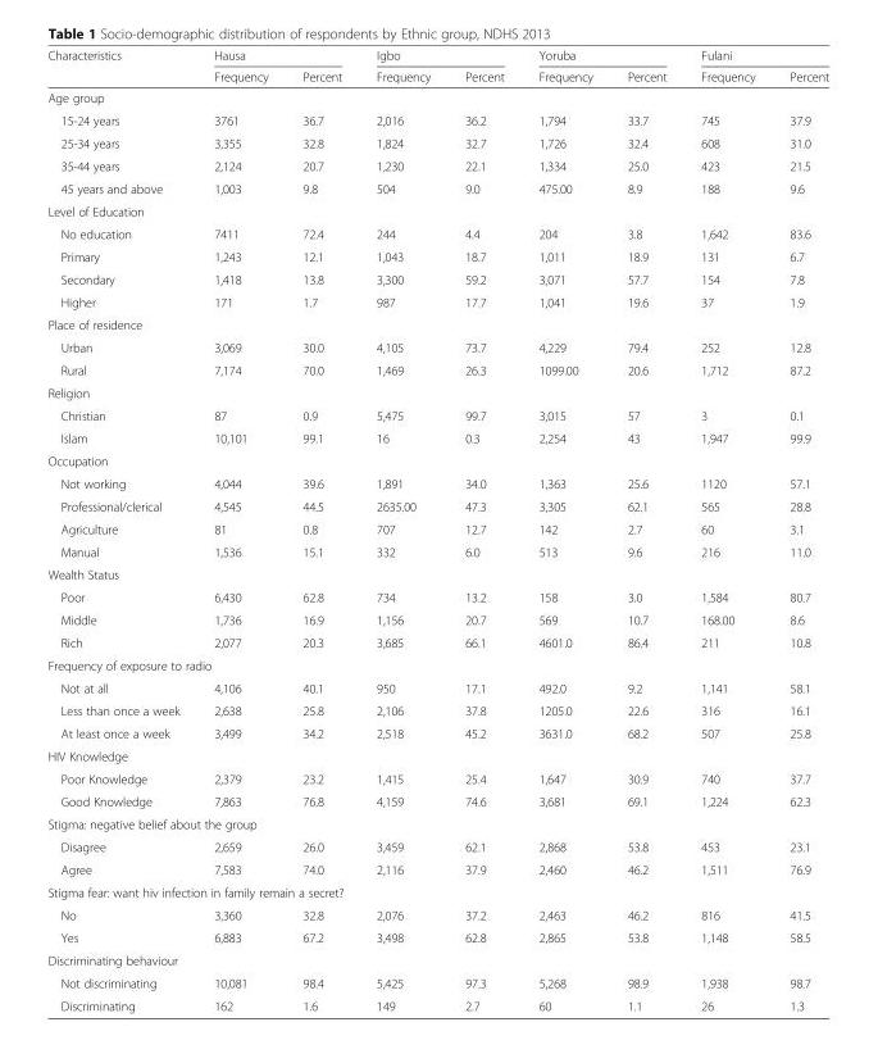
<table><thead><tr><td rowspan="2">Characteristics</td><td colspan="2">Hausa</td><td colspan="2">Igbo</td><td colspan="2">Yoruba</td><td colspan="2">Fulani</td></tr><tr><td>Frequency</td><td>Percent</td><td>Frequency</td><td>Percent</td><td>Frequency</td><td>Percent</td><td>Frequency</td><td>Percent</td></tr></thead><tbody><tr><td colspan="9">Age group</td></tr><tr><td>15-24 years</td><td>3761</td><td>36.7</td><td>2,016</td><td>36.2</td><td>1,794</td><td>33.7</td><td>745</td><td>37.9</td></tr><tr><td>25-34 years</td><td>3,355</td><td>32.8</td><td>1,824</td><td>32.7</td><td>1,726</td><td>32.4</td><td>608</td><td>31.0</td></tr><tr><td>35-44 years</td><td>2,124</td><td>20.7</td><td>1,230</td><td>22.1</td><td>1,334</td><td>25.0</td><td>423</td><td>21.5</td></tr><tr><td>45 years and above</td><td>1,003</td><td>9.8</td><td>504</td><td>9.0</td><td>475.00</td><td>8.9</td><td>188</td><td>9.6</td></tr><tr><td colspan="9">Level of Education</td></tr><tr><td>No education</td><td>7411</td><td>72.4</td><td>244</td><td>4.4</td><td>204</td><td>3.8</td><td>1,642</td><td>83.6</td></tr><tr><td>Primary</td><td>1,243</td><td>12.1</td><td>1,043</td><td>18.7</td><td>1,011</td><td>18.9</td><td>131</td><td>6.7</td></tr><tr><td>Secondary</td><td>1,418</td><td>13.8</td><td>3,300</td><td>59.2</td><td>3,071</td><td>57.7</td><td>154</td><td>7.8</td></tr><tr><td>Higher</td><td>171</td><td>1.7</td><td>987</td><td>17.7</td><td>1,041</td><td>19.6</td><td>37</td><td>1.9</td></tr><tr><td colspan="9">Place of residence</td></tr><tr><td>Urban</td><td>3,069</td><td>30.0</td><td>4,105</td><td>73.7</td><td>4,229</td><td>79.4</td><td>252</td><td>12.8</td></tr><tr><td>Rural</td><td>7,174</td><td>70.0</td><td>1,469</td><td>26.3</td><td>1099.00</td><td>20.6</td><td>1,712</td><td>87.2</td></tr><tr><td colspan="9">Religion</td></tr><tr><td>Christian</td><td>87</td><td>0.9</td><td>5,475</td><td>99.7</td><td>3,015</td><td>57</td><td>3</td><td>0.1</td></tr><tr><td>Islam</td><td>10,101</td><td>99.1</td><td>16</td><td>0.3</td><td>2,254</td><td>43</td><td>1,947</td><td>99.9</td></tr><tr><td colspan="9">Occupation</td></tr><tr><td>Not working</td><td>4,044</td><td>39.6</td><td>1,891</td><td>34.0</td><td>1,363</td><td>25.6</td><td>1120</td><td>57.1</td></tr><tr><td>Professional/clerical</td><td>4,545</td><td>44.5</td><td>2635.00</td><td>47.3</td><td>3,305</td><td>62.1</td><td>565</td><td>28.8</td></tr><tr><td>Agriculture</td><td>81</td><td>0.8</td><td>707</td><td>12.7</td><td>142</td><td>2.7</td><td>60</td><td>3.1</td></tr><tr><td>Manual</td><td>1,536</td><td>15.1</td><td>332</td><td>6.0</td><td>513</td><td>9.6</td><td>216</td><td>11.0</td></tr><tr><td colspan="9">Wealth Status</td></tr><tr><td>Poor</td><td>6,430</td><td>62.8</td><td>734</td><td>13.2</td><td>158</td><td>3.0</td><td>1,584</td><td>80.7</td></tr><tr><td>Middle</td><td>1,736</td><td>16.9</td><td>1,156</td><td>20.7</td><td>569</td><td>10.7</td><td>168.00</td><td>8.6</td></tr><tr><td>Rich</td><td>2,077</td><td>20.3</td><td>3,685</td><td>66.1</td><td>4601.0</td><td>86.4</td><td>211</td><td>10.8</td></tr><tr><td colspan="9">Frequency of exposure to radio</td></tr><tr><td>Not at all</td><td>4,106</td><td>40.1</td><td>950</td><td>17.1</td><td>492.0</td><td>9.2</td><td>1,141</td><td>58.1</td></tr><tr><td>Less than once a week</td><td>2,638</td><td>25.8</td><td>2,106</td><td>37.8</td><td>1205.0</td><td>22.6</td><td>316</td><td>16.1</td></tr><tr><td>At least once a week</td><td>3,499</td><td>34.2</td><td>2,518</td><td>45.2</td><td>3631.0</td><td>68.2</td><td>507</td><td>25.8</td></tr><tr><td colspan="9">HIV Knowledge</td></tr><tr><td>Poor Knowledge</td><td>2,379</td><td>23.2</td><td>1,415</td><td>25.4</td><td>1,647</td><td>30.9</td><td>740</td><td>37.7</td></tr><tr><td>Good Knowledge</td><td>7,863</td><td>76.8</td><td>4,159</td><td>74.6</td><td>3,681</td><td>69.1</td><td>1,224</td><td>62.3</td></tr><tr><td colspan="9">Stigma: negative belief about the group</td></tr><tr><td>Disagree</td><td>2,659</td><td>26.0</td><td>3,459</td><td>62.1</td><td>2,868</td><td>53.8</td><td>453</td><td>23.1</td></tr><tr><td>Agree</td><td>7,583</td><td>74.0</td><td>2,116</td><td>37.9</td><td>2,460</td><td>46.2</td><td>1,511</td><td>76.9</td></tr><tr><td colspan="9">Stigma fear: want hiv infection in family remain a secret?</td></tr><tr><td>No</td><td>3,360</td><td>32.8</td><td>2,076</td><td>37.2</td><td>2,463</td><td>46.2</td><td>816</td><td>41.5</td></tr><tr><td>Yes</td><td>6,883</td><td>67.2</td><td>3,498</td><td>62.8</td><td>2,865</td><td>53.8</td><td>1,148</td><td>58.5</td></tr><tr><td colspan="9">Discriminating behaviour</td></tr><tr><td>Not discriminating</td><td>10,081</td><td>98.4</td><td>5,425</td><td>97.3</td><td>5,268</td><td>98.9</td><td>1,938</td><td>98.7</td></tr><tr><td>Discriminating</td><td>162</td><td>1.6</td><td>149</td><td>2.7</td><td>60</td><td>1.1</td><td>26</td><td>1.3</td></tr></tbody></table>